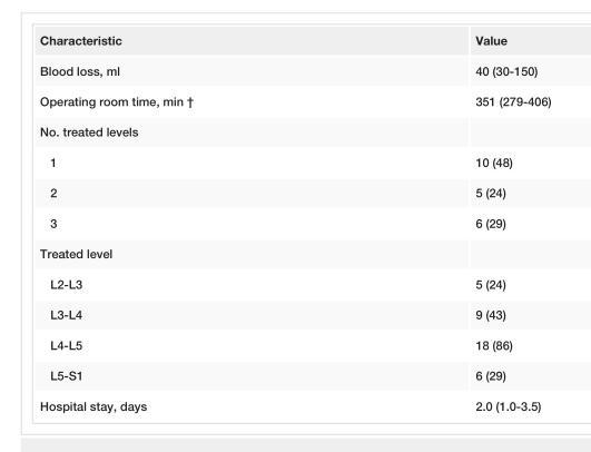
<table><tbody><tr><td>Characteristic</td><td>Value</td></tr><tr><td>Blood loss, ml</td><td>40 (30-150)</td></tr><tr><td>Operating room time, min †</td><td>351 (279-406)</td></tr><tr><td colspan="2">No. treated levels</td></tr><tr><td>1</td><td>10 (48)</td></tr><tr><td>2</td><td>5 (24)</td></tr><tr><td>3</td><td>6 (29)</td></tr><tr><td colspan="2">Treated level</td></tr><tr><td>L2-L3</td><td>5 (24)</td></tr><tr><td>L3-L4</td><td>9 (43)</td></tr><tr><td>L4-L5</td><td>18 (86)</td></tr><tr><td>L5-S1</td><td>6 (29)</td></tr><tr><td>Hospital stay, days</td><td>2.0 (1.0-3.5)</td></tr></tbody></table>